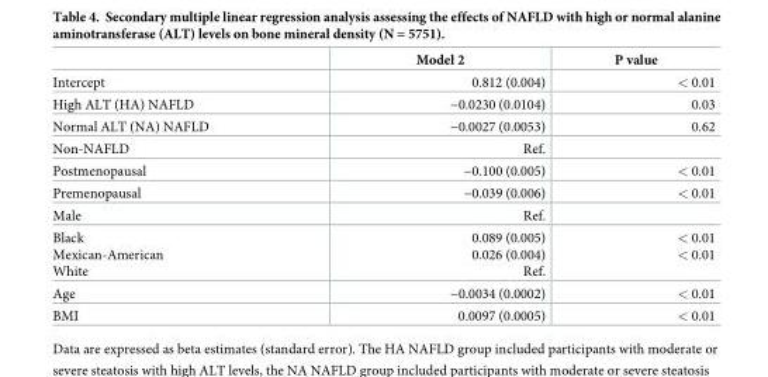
<table><thead><tr><td></td><td>Model 2</td><td>P value</td></tr></thead><tbody><tr><td>Intercept</td><td>0.812 (0.004)</td><td>&lt; 0.01</td></tr><tr><td>High ALT (HA) NAFLD</td><td>−0.0230 (0.0104)</td><td>0.03</td></tr><tr><td>Normal ALT (NA) NAFLD</td><td>−0.0027 (0.0053)</td><td>0.62</td></tr><tr><td>Non-NAFLD</td><td>Ref.</td><td></td></tr><tr><td>Postmenopausal</td><td>−0.100 (0.005)</td><td>&lt; 0.01</td></tr><tr><td>Premenopausal</td><td>−0.039 (0.006)</td><td>&lt; 0.01</td></tr><tr><td>Male</td><td>Ref.</td><td></td></tr><tr><td>Black Mexican-American White</td><td>0.089 (0.005) 0.026 (0.004) Ref.</td><td>&lt; 0.01 &lt; 0.01</td></tr><tr><td>Age</td><td>−0.0034 (0.0002)</td><td>&lt; 0.01</td></tr><tr><td>BMI</td><td>0.0097 (0.0005)</td><td>&lt; 0.01</td></tr></tbody></table>